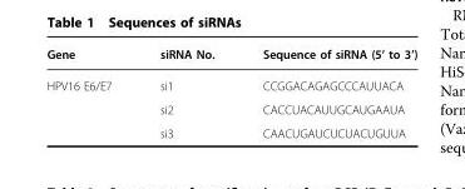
<table><thead><tr><td>Gene</td><td>siRNA No.</td><td>Sequence of siRNA (5’ to 3’)</td></tr></thead><tbody><tr><td rowspan="3">HPV16 E6/E7</td><td>si1</td><td>CCGGACAGAGCCCAUUACA</td></tr><tr><td>si2</td><td>CACCUACAUUGCAUGAAUA</td></tr><tr><td>si3</td><td>CAACUGAUCUCUACUGUUA</td></tr></tbody></table>